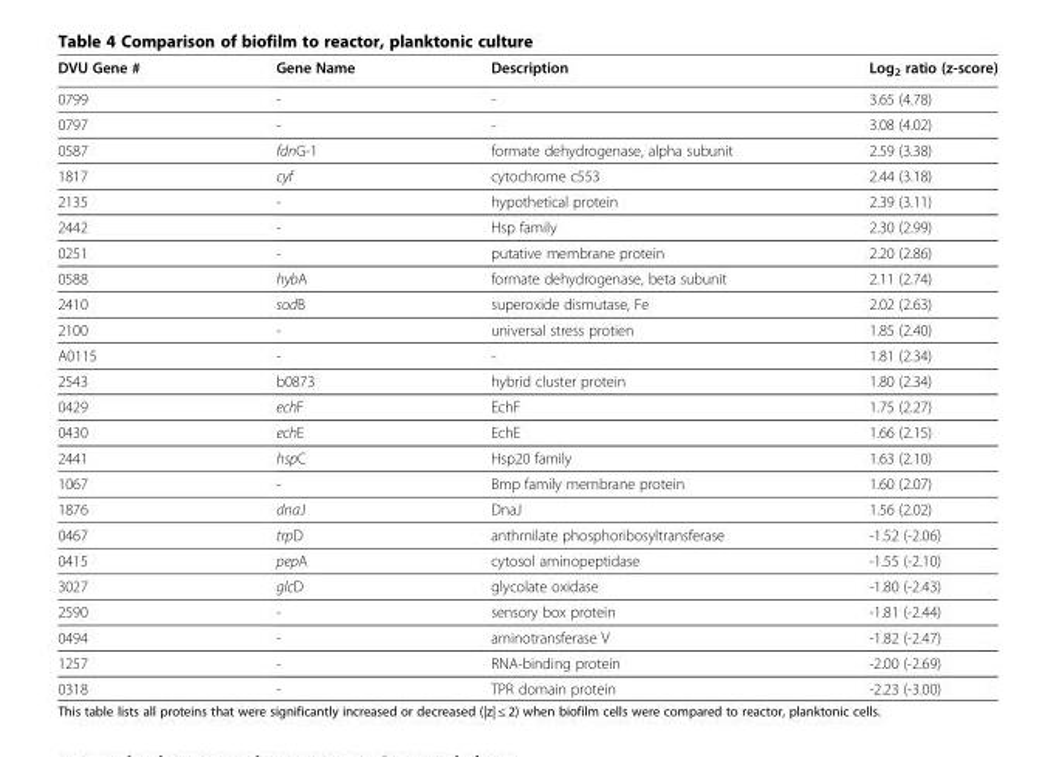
<table><thead><tr><td>DVU Gene #</td><td>Gene Name</td><td>Description</td><td>Log<sub>2</sub> ratio (z-score)</td></tr></thead><tbody><tr><td>0799</td><td>-</td><td>-</td><td>3.65 (4.78)</td></tr><tr><td>0797</td><td>-</td><td>-</td><td>3.08 (4.02)</td></tr><tr><td>0587</td><td>fdnG-1</td><td>formate dehydrogenase, alpha subunit</td><td>2.59 (3.38)</td></tr><tr><td>1817</td><td>cyf</td><td>cytochrome c553</td><td>2.44 (3.18)</td></tr><tr><td>2135</td><td>-</td><td>hypothetical protein</td><td>2.39 (3.11)</td></tr><tr><td>2442</td><td>-</td><td>Hsp family</td><td>2.30 (2.99)</td></tr><tr><td>0251</td><td>-</td><td>putative membrane protein</td><td>2.20 (2.86)</td></tr><tr><td>0588</td><td>hybA</td><td>formate dehydrogenase, beta subunit</td><td>2.11 (2.74)</td></tr><tr><td>2410</td><td>sodB</td><td>superoxide dismutase, Fe</td><td>2.02 (2.63)</td></tr><tr><td>2100</td><td>-</td><td>universal stress protien</td><td>1.85 (2.40)</td></tr><tr><td>A0115</td><td>-</td><td>-</td><td>1.81 (2.34)</td></tr><tr><td>2543</td><td>b0873</td><td>hybrid cluster protein</td><td>1.80 (2.34)</td></tr><tr><td>0429</td><td>echF</td><td>EchF</td><td>1.75 (2.27)</td></tr><tr><td>0430</td><td>echE</td><td>EchE</td><td>1.66 (2.15)</td></tr><tr><td>2441</td><td>hspC</td><td>Hsp20 family</td><td>1.63 (2.10)</td></tr><tr><td>1067</td><td>-</td><td>Bmp family membrane protein</td><td>1.60 (2.07)</td></tr><tr><td>1876</td><td>dnaJ</td><td>DnaJ</td><td>1.56 (2.02)</td></tr><tr><td>0467</td><td>trpD</td><td>anthrnilate phosphoribosyltransferase</td><td>-1.52 (-2.06)</td></tr><tr><td>0415</td><td>pepA</td><td>cytosol aminopeptidase</td><td>-1.55 (-2.10)</td></tr><tr><td>3027</td><td>glcD</td><td>glycolate oxidase</td><td>-1.80 (-2.43)</td></tr><tr><td>2590</td><td>-</td><td>sensory box protein</td><td>-1.81 (-2.44)</td></tr><tr><td>0494</td><td>-</td><td>aminotransferase V</td><td>-1.82 (-2.47)</td></tr><tr><td>1257</td><td>-</td><td>RNA-binding protein</td><td>-2.00 (-2.69)</td></tr><tr><td>0318</td><td>-</td><td>TPR domain protein</td><td>-2.23 (-3.00)</td></tr></tbody></table>